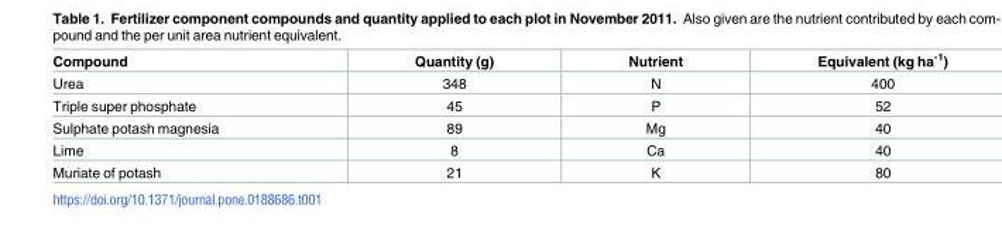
<table><thead><tr><td>Compound</td><td>Quantity (g)</td><td>Nutrient</td><td>Equivalent (kg ha<sup>-1</sup>)</td></tr></thead><tbody><tr><td>Urea</td><td>348</td><td>N</td><td>400</td></tr><tr><td>Triple super phosphate</td><td>45</td><td>P</td><td>52</td></tr><tr><td>Sulphate potash magnesia</td><td>89</td><td>Mg</td><td>40</td></tr><tr><td>Lime</td><td>8</td><td>Ca</td><td>40</td></tr><tr><td>Muriate of potash</td><td>21</td><td>K</td><td>80</td></tr></tbody></table>